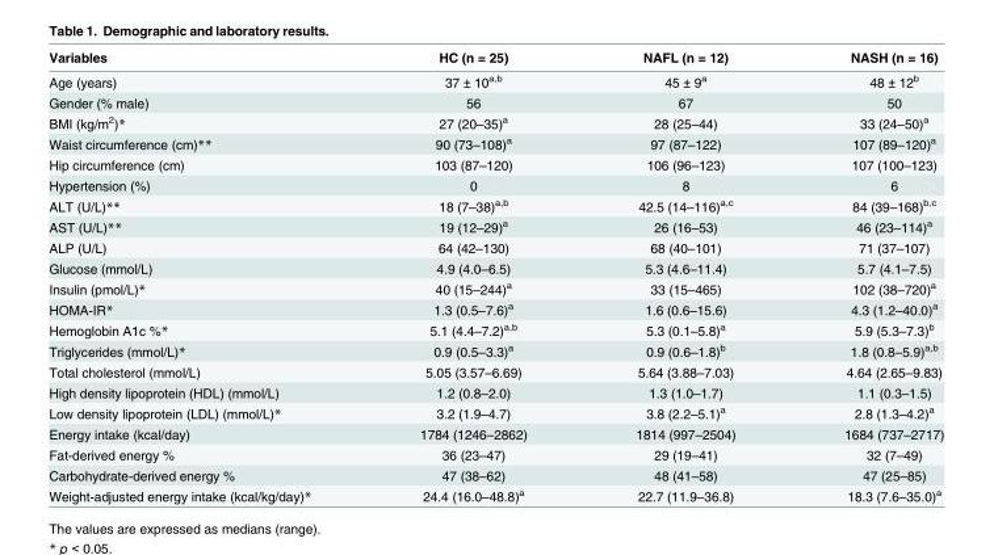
<table><thead><tr><td>Variables</td><td>HC (n = 25)</td><td>NAFL (n = 12)</td><td>NASH (n = 16)</td></tr></thead><tbody><tr><td>Age (years)</td><td>37 ± 10<sup>a,b</sup></td><td>45 ± 9<sup>a</sup></td><td>48 ± 12<sup>b</sup></td></tr><tr><td>Gender (% male)</td><td>56</td><td>67</td><td>50</td></tr><tr><td>BMI (kg/m<sup>2</sup>)*</td><td>27 (20–35)<sup>a</sup></td><td>28 (25–44)</td><td>33 (24–50)<sup>a</sup></td></tr><tr><td>Waist circumference (cm)**</td><td>90 (73–108)<sup>a</sup></td><td>97 (87–122)</td><td>107 (89–120)<sup>a</sup></td></tr><tr><td>Hip circumference (cm)</td><td>103 (87–120)</td><td>106 (96–123)</td><td>107 (100–123)</td></tr><tr><td>Hypertension (%)</td><td>0</td><td>8</td><td>6</td></tr><tr><td>ALT (U/L)**</td><td>18 (7–38)<sup>a,b</sup></td><td>42.5 (14–116)<sup>a,c</sup></td><td>84 (39–168)<sup>b,c</sup></td></tr><tr><td>AST (U/L)**</td><td>19 (12–29)<sup>a</sup></td><td>26 (16–53)</td><td>46 (23–114)<sup>a</sup></td></tr><tr><td>ALP (U/L)</td><td>64 (42–130)</td><td>68 (40–101)</td><td>71 (37–107)</td></tr><tr><td>Glucose (mmol/L)</td><td>4.9 (4.0–6.5)</td><td>5.3 (4.6–11.4)</td><td>5.7 (4.1–7.5)</td></tr><tr><td>Insulin (pmol/L)*</td><td>40 (15–244)<sup>a</sup></td><td>33 (15–465)</td><td>102 (38–720)<sup>a</sup></td></tr><tr><td>HOMA-IR*</td><td>1.3 (0.5–7.6)<sup>a</sup></td><td>1.6 (0.6–15.6)</td><td>4.3 (1.2–40.0)<sup>a</sup></td></tr><tr><td>Hemoglobin A1c %*</td><td>5.1 (4.4–7.2)<sup>a,b</sup></td><td>5.3 (0.1–5.8)<sup>a</sup></td><td>5.9 (5.3–7.3)<sup>b</sup></td></tr><tr><td>Triglycerides (mmol/L)*</td><td>0.9 (0.5–3.3)<sup>a</sup></td><td>0.9 (0.6–1.8)<sup>b</sup></td><td>1.8 (0.8–5.9)<sup>a,b</sup></td></tr><tr><td>Total cholesterol (mmol/L)</td><td>5.05 (3.57–6.69)</td><td>5.64 (3.88–7.03)</td><td>4.64 (2.65–9.83)</td></tr><tr><td>High density lipoprotein (HDL) (mmol/L)</td><td>1.2 (0.8–2.0)</td><td>1.3 (1.0–1.7)</td><td>1.1 (0.3–1.5)</td></tr><tr><td>Low density lipoprotein (LDL) (mmol/L)*</td><td>3.2 (1.9–4.7)</td><td>3.8 (2.2–5.1)<sup>a</sup></td><td>2.8 (1.3–4.2)<sup>a</sup></td></tr><tr><td>Energy intake (kcal/day)</td><td>1784 (1246–2862)</td><td>1814 (997–2504)</td><td>1684 (737–2717)</td></tr><tr><td>Fat-derived energy %</td><td>36 (23–47)</td><td>29 (19–41)</td><td>32 (7–49)</td></tr><tr><td>Carbohydrate-derived energy %</td><td>47 (38–62)</td><td>48 (41–58)</td><td>47 (25–85)</td></tr><tr><td>Weight-adjusted energy intake (kcal/kg/day)*</td><td>24.4 (16.0–48.8)<sup>a</sup></td><td>22.7 (11.9–36.8)</td><td>18.3 (7.6–35.0)<sup>a</sup></td></tr></tbody></table>